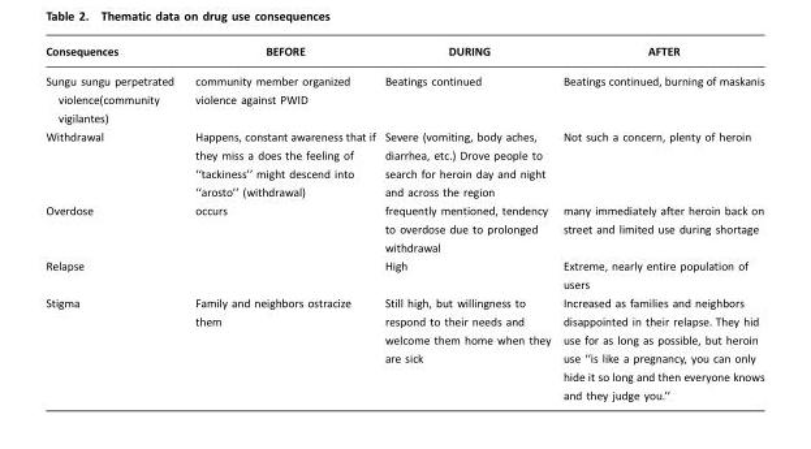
<table><thead><tr><td>Consequences</td><td>BEFORE</td><td>DURING</td><td>AFTER</td></tr></thead><tbody><tr><td>Sungu sungu perpetrated violence(community vigilantes)</td><td>community member organized violence against PWID</td><td>Beatings continued</td><td>Beatings continued, burning of maskanis</td></tr><tr><td>Withdrawal</td><td>Happens, constant awareness that if they miss a does the feeling of ‘‘tackiness’’ might descend into ‘‘arosto’’ (withdrawal)</td><td>Severe (vomiting, body aches, diarrhea, etc.) Drove people to search for heroin day and night and across the region</td><td>Not such a concern, plenty of heroin</td></tr><tr><td>Overdose</td><td>occurs</td><td>frequently mentioned, tendency to overdose due to prolonged withdrawal</td><td>many immediately after heroin back on street and limited use during shortage</td></tr><tr><td>Relapse</td><td></td><td>High</td><td>Extreme, nearly entire population of users</td></tr><tr><td>Stigma</td><td>Family and neighbors ostracize them</td><td>Still high, but willingness to respond to their needs and welcome them home when they are sick</td><td>Increased as families and neighbors disappointed in their relapse. They hid use for as long as possible, but heroin use ‘‘is like a pregnancy, you can only hide it so long and then everyone knows and they judge you.’’</td></tr></tbody></table>